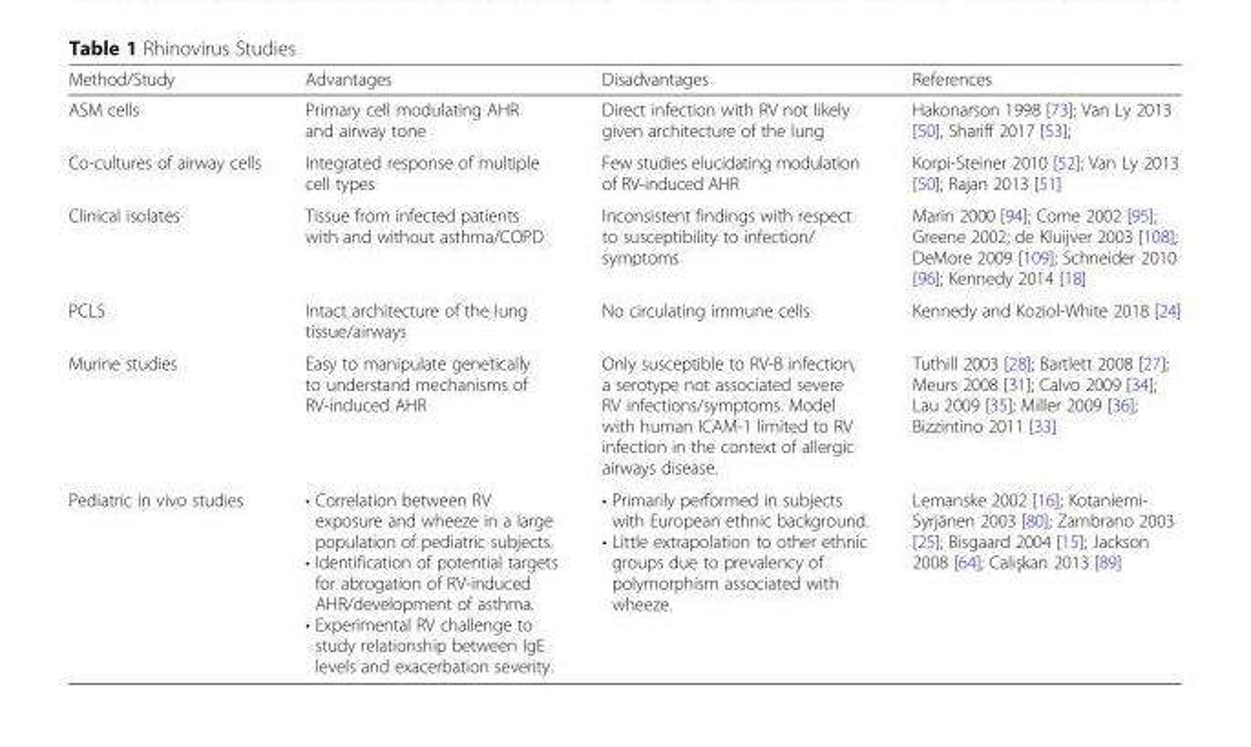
<table><thead><tr><td>Method/Study</td><td>Advantages</td><td>Disadvantages</td><td>References</td></tr></thead><tbody><tr><td>ASM cells</td><td>Primary cell modulating AHR and airway tone</td><td>Direct infection with RV not likely given architecture of the lung</td><td>Hakonarson 1998 [73]; Van Ly 2013 [50], Shariff 2017 [53];</td></tr><tr><td>Co-cultures of airway cells</td><td>Integrated response of multiple cell types</td><td>Few studies elucidating modulation of RV-induced AHR</td><td>Korpi-Steiner 2010 [52]; Van Ly 2013 [50]; Rajan 2013 [51]</td></tr><tr><td>Clinical isolates</td><td>Tissue from infected patients with and without asthma/COPD</td><td>Inconsistent findings with respect to susceptibility to infection/ symptoms</td><td>Marin 2000 [94]; Corne 2002 [95]; Greene 2002; de Kluijver 2003 [108]; DeMore 2009 [109]; Schneider 2010 [96]; Kennedy 2014 [18]</td></tr><tr><td>PCLS</td><td>Intact architecture of the lung tissue/airways</td><td>No circulating immune cells</td><td>Kennedy and Koziol-White 2018 [24]</td></tr><tr><td>Murine studies</td><td>Easy to manipulate genetically to understand mechanisms of RV-induced AHR</td><td>Only susceptible to RV-B infection, a serotype not associated severe RV infections/symptoms. Model with human ICAM-1 limited to RV infection in the context of allergic airways disease.</td><td>Tuthill 2003 [28]; Bartlett 2008 [27]; Meurs 2008 [31]; Calvo 2009 [34]; Lau 2009 [35]; Miller 2009 [36]; Bizzintino 2011 [33]</td></tr><tr><td>Pediatric in vivo studies</td><td>• Correlation between RV exposure and wheeze in a large population of pediatric subjects. • Identification of potential targets for abrogation of RV-induced AHR/development of asthma. • Experimental RV challenge to study relationship between IgE levels and exacerbation severity.</td><td>• Primarily performed in subjects with European ethnic background. • Little extrapolation to other ethnic groups due to prevalency of polymorphism associated with wheeze.</td><td>Lemanske 2002 [16]; Kotaniemi- Syrjänen 2003 [80]; Zambrano 2003 [25]; Bisgaard 2004 [15]; Jackson 2008 [64]; Calişkan 2013 [89]</td></tr></tbody></table>